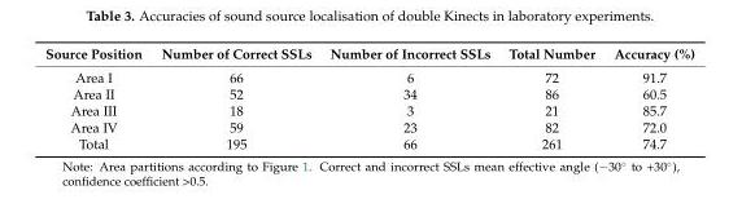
<table><thead><tr><td>Source Position</td><td>Number of Correct SSLs</td><td>Number of Incorrect SSLs</td><td>Total Number</td><td>Accuracy (%)</td></tr></thead><tbody><tr><td>Area I</td><td>66</td><td>6</td><td>72</td><td>91.7</td></tr><tr><td>Area II</td><td>52</td><td>34</td><td>86</td><td>60.5</td></tr><tr><td>Area III</td><td>18</td><td>3</td><td>21</td><td>85.7</td></tr><tr><td>Area IV</td><td>59</td><td>23</td><td>82</td><td>72.0</td></tr><tr><td>Total</td><td>195</td><td>66</td><td>261</td><td>74.7</td></tr></tbody></table>